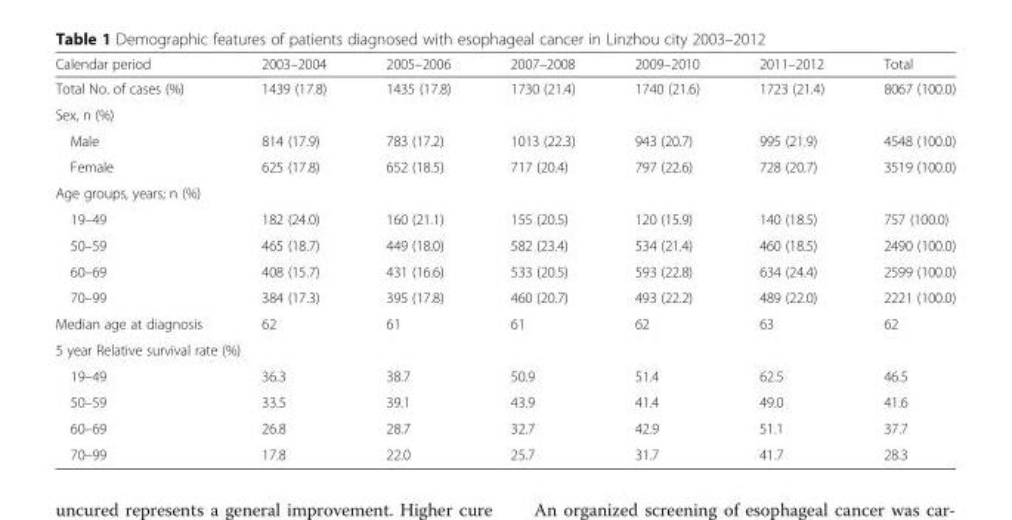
<table><thead><tr><td>Calendar period</td><td>2003–2004</td><td>2005–2006</td><td>2007–2008</td><td>2009–2010</td><td>2011–2012</td><td>Total</td></tr></thead><tbody><tr><td>Total No. of cases (%)</td><td>1439 (17.8)</td><td>1435 (17.8)</td><td>1730 (21.4)</td><td>1740 (21.6)</td><td>1723 (21.4)</td><td>8067 (100.0)</td></tr><tr><td colspan="7">Sex, n (%)</td></tr><tr><td>Male</td><td>814 (17.9)</td><td>783 (17.2)</td><td>1013 (22.3)</td><td>943 (20.7)</td><td>995 (21.9)</td><td>4548 (100.0)</td></tr><tr><td>Female</td><td>625 (17.8)</td><td>652 (18.5)</td><td>717 (20.4)</td><td>797 (22.6)</td><td>728 (20.7)</td><td>3519 (100.0)</td></tr><tr><td colspan="7">Age groups, years; n (%)</td></tr><tr><td>19–49</td><td>182 (24.0)</td><td>160 (21.1)</td><td>155 (20.5)</td><td>120 (15.9)</td><td>140 (18.5)</td><td>757 (100.0)</td></tr><tr><td>50–59</td><td>465 (18.7)</td><td>449 (18.0)</td><td>582 (23.4)</td><td>534 (21.4)</td><td>460 (18.5)</td><td>2490 (100.0)</td></tr><tr><td>60–69</td><td>408 (15.7)</td><td>431 (16.6)</td><td>533 (20.5)</td><td>593 (22.8)</td><td>634 (24.4)</td><td>2599 (100.0)</td></tr><tr><td>70–99</td><td>384 (17.3)</td><td>395 (17.8)</td><td>460 (20.7)</td><td>493 (22.2)</td><td>489 (22.0)</td><td>2221 (100.0)</td></tr><tr><td>Median age at diagnosis</td><td>62</td><td>61</td><td>61</td><td>62</td><td>63</td><td>62</td></tr><tr><td colspan="7">5 year Relative survival rate (%)</td></tr><tr><td>19–49</td><td>36.3</td><td>38.7</td><td>50.9</td><td>51.4</td><td>62.5</td><td>46.5</td></tr><tr><td>50–59</td><td>33.5</td><td>39.1</td><td>43.9</td><td>41.4</td><td>49.0</td><td>41.6</td></tr><tr><td>60–69</td><td>26.8</td><td>28.7</td><td>32.7</td><td>42.9</td><td>51.1</td><td>37.7</td></tr><tr><td>70–99</td><td>17.8</td><td>22.0</td><td>25.7</td><td>31.7</td><td>41.7</td><td>28.3</td></tr></tbody></table>